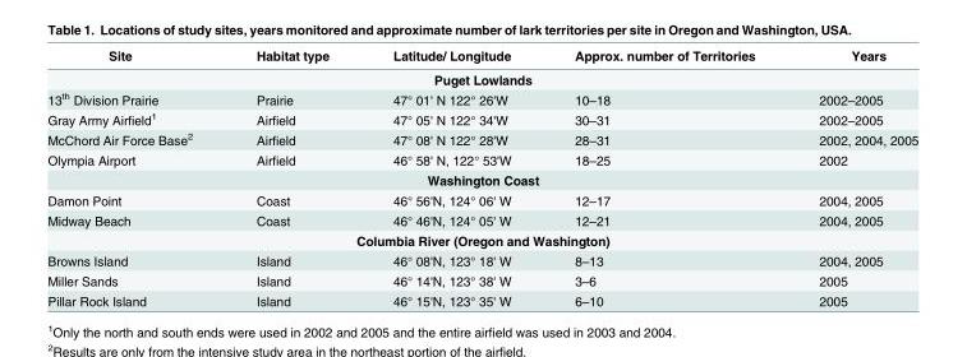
<table><thead><tr><td>Site</td><td>Habitat type</td><td>Latitude/ Longitude</td><td>Approx. number of Territories</td><td>Years</td></tr></thead><tbody><tr><td colspan="5">Puget Lowlands</td></tr><tr><td>13<sup>th</sup> Division Prairie</td><td>Prairie</td><td>47° 01&#x27; N 122° 26&#x27;W</td><td>10–18</td><td>2002–2005</td></tr><tr><td>Gray Army Airfield<sup>1</sup></td><td>Airfield</td><td>47° 05&#x27; N 122° 34&#x27;W</td><td>30–31</td><td>2002–2005</td></tr><tr><td>McChord Air Force Base<sup>2</sup></td><td>Airfield</td><td>47° 08&#x27; N 122° 28&#x27;W</td><td>28–31</td><td>2002, 2004, 2005</td></tr><tr><td>Olympia Airport</td><td>Airfield</td><td>46° 58&#x27; N, 122° 53&#x27;W</td><td>18–25</td><td>2002</td></tr><tr><td colspan="5">Washington Coast</td></tr><tr><td>Damon Point</td><td>Coast</td><td>46° 56&#x27;N, 124° 06&#x27; W</td><td>12–17</td><td>2004, 2005</td></tr><tr><td>Midway Beach</td><td>Coast</td><td>46° 46&#x27;N, 124° 05&#x27; W</td><td>12–21</td><td>2004, 2005</td></tr><tr><td colspan="5">Columbia River (Oregon and Washington)</td></tr><tr><td>Browns Island</td><td>Island</td><td>46° 08&#x27;N, 123° 18&#x27; W</td><td>8–13</td><td>2004, 2005</td></tr><tr><td>Miller Sands</td><td>Island</td><td>46° 14&#x27;N, 123° 38&#x27; W</td><td>3–6</td><td>2005</td></tr><tr><td>Pillar Rock Island</td><td>Island</td><td>46° 15&#x27;N, 123° 35&#x27; W</td><td>6–10</td><td>2005</td></tr></tbody></table>